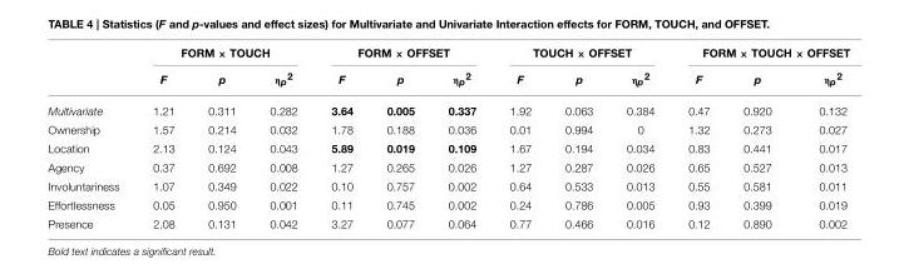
<table><thead><tr><td rowspan="2"></td><td colspan="3">FORM × TOUCH</td><td colspan="3">FORM × OFFSET</td><td colspan="3">TOUCH × OFFSET</td><td colspan="3">FORM × TOUCH × OFFSET</td></tr><tr><td>F</td><td>p</td><td>η<sub>p</sub><sup>2</sup></td><td>F</td><td>p</td><td>η<sub>p</sub><sup>2</sup></td><td>F</td><td>p</td><td>η<sub>p</sub><sup>2</sup></td><td>F</td><td>p</td><td>η<sub>p</sub><sup>2</sup></td></tr></thead><tbody><tr><td>Multivariate</td><td>1.21</td><td>0.311</td><td>0.282</td><td>3.64</td><td>0.005</td><td>0.337</td><td>1.92</td><td>0.063</td><td>0.384</td><td>0.47</td><td>0.920</td><td>0.132</td></tr><tr><td>Ownership</td><td>1.57</td><td>0.214</td><td>0.032</td><td>1.78</td><td>0.188</td><td>0.036</td><td>0.01</td><td>0.994</td><td>0</td><td>1.32</td><td>0.273</td><td>0.027</td></tr><tr><td>Location</td><td>2.13</td><td>0.124</td><td>0.043</td><td>5.89</td><td>0.019</td><td>0.109</td><td>1.67</td><td>0.194</td><td>0.034</td><td>0.83</td><td>0.441</td><td>0.017</td></tr><tr><td>Agency</td><td>0.37</td><td>0.692</td><td>0.008</td><td>1.27</td><td>0.265</td><td>0.026</td><td>1.27</td><td>0.287</td><td>0.026</td><td>0.65</td><td>0.527</td><td>0.013</td></tr><tr><td>Involuntariness</td><td>1.07</td><td>0.349</td><td>0.022</td><td>0.10</td><td>0.757</td><td>0.002</td><td>0.64</td><td>0.533</td><td>0.013</td><td>0.55</td><td>0.581</td><td>0.011</td></tr><tr><td>Effortlessness</td><td>0.05</td><td>0.950</td><td>0.001</td><td>0.11</td><td>0.745</td><td>0.002</td><td>0.24</td><td>0.786</td><td>0.005</td><td>0.93</td><td>0.399</td><td>0.019</td></tr><tr><td>Presence</td><td>2.08</td><td>0.131</td><td>0.042</td><td>3.27</td><td>0.077</td><td>0.064</td><td>0.77</td><td>0.466</td><td>0.016</td><td>0.12</td><td>0.890</td><td>0.002</td></tr></tbody></table>